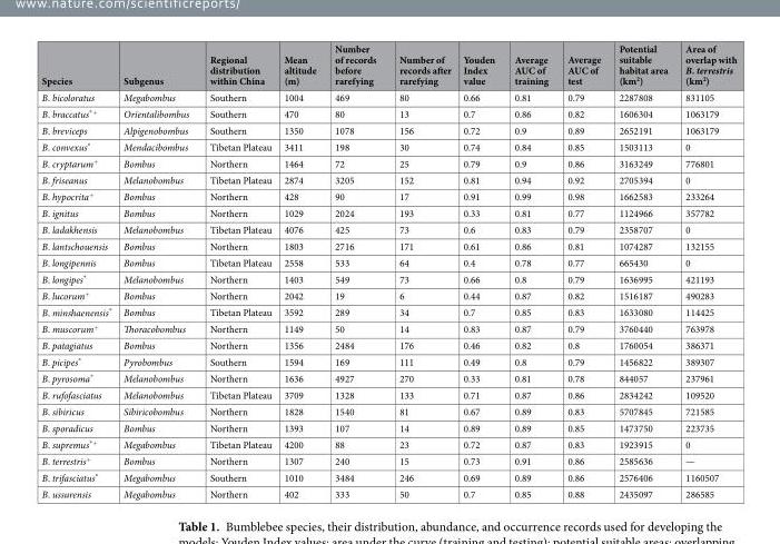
<table><thead><tr><td>Species</td><td>Subgenus</td><td>Regional distribution within China</td><td>Mean altitude (m)</td><td>Number of records before rarefying</td><td>Number of records after rarefying</td><td>Youden Index value</td><td>Average AUC of training</td><td>Average AUC of test</td><td>Potential suitable habitat area (km<sup>2</sup>)</td><td>Area of overlap with B. terrestris (km<sup>2</sup>)</td></tr></thead><tbody><tr><td>B. bicoloratus</td><td>Megabombus</td><td>Southern</td><td>1004</td><td>469</td><td>80</td><td>0.66</td><td>0.81</td><td>0.79</td><td>2287808</td><td>831105</td></tr><tr><td>B. braccatus<sup>*+</sup></td><td>Orientalibombus</td><td>Southern</td><td>470</td><td>80</td><td>13</td><td>0.7</td><td>0.86</td><td>0.82</td><td>1606304</td><td>1063179</td></tr><tr><td>B. breviceps</td><td>Alpigenobombus</td><td>Southern</td><td>1350</td><td>1078</td><td>156</td><td>0.72</td><td>0.9</td><td>0.89</td><td>2652191</td><td>1063179</td></tr><tr><td>B. convexus*</td><td>Mendacibombus</td><td>Tibetan Plateau</td><td>3411</td><td>198</td><td>30</td><td>0.74</td><td>0.84</td><td>0.85</td><td>1503113</td><td>0</td></tr><tr><td>B. cryptarum<sup>+</sup></td><td>Bombus</td><td>Northern</td><td>1464</td><td>72</td><td>25</td><td>0.79</td><td>0.9</td><td>0.86</td><td>3163249</td><td>776801</td></tr><tr><td>B. friseanus</td><td>Melanobombus</td><td>Tibetan Plateau</td><td>2874</td><td>3205</td><td>152</td><td>0.81</td><td>0.94</td><td>0.92</td><td>2705394</td><td>0</td></tr><tr><td>B. hypocrita<sup>+</sup></td><td>Bombus</td><td>Northern</td><td>428</td><td>90</td><td>17</td><td>0.91</td><td>0.99</td><td>0.98</td><td>1662583</td><td>233264</td></tr><tr><td>B. ignitus</td><td>Bombus</td><td>Northern</td><td>1029</td><td>2024</td><td>193</td><td>0.33</td><td>0.81</td><td>0.77</td><td>1124966</td><td>357782</td></tr><tr><td>B. ladakhensis</td><td>Melanobombus</td><td>Tibetan Plateau</td><td>4076</td><td>425</td><td>73</td><td>0.6</td><td>0.83</td><td>0.79</td><td>2358707</td><td>0</td></tr><tr><td>B. lantschouensis</td><td>Bombus</td><td>Northern</td><td>1803</td><td>2716</td><td>171</td><td>0.61</td><td>0.86</td><td>0.81</td><td>1074287</td><td>132155</td></tr><tr><td>B. longipennis</td><td>Bombus</td><td>Tibetan Plateau</td><td>2558</td><td>533</td><td>64</td><td>0.4</td><td>0.78</td><td>0.77</td><td>665430</td><td>0</td></tr><tr><td>B. longipes*</td><td>Melanobombus</td><td>Northern</td><td>1403</td><td>549</td><td>73</td><td>0.66</td><td>0.8</td><td>0.79</td><td>1636995</td><td>421193</td></tr><tr><td>B. lucorum<sup>+</sup></td><td>Bombus</td><td>Northern</td><td>2042</td><td>19</td><td>6</td><td>0.44</td><td>0.87</td><td>0.82</td><td>1516187</td><td>490283</td></tr><tr><td>B. minshaenensis*</td><td>Bombus</td><td>Tibetan Plateau</td><td>3592</td><td>289</td><td>34</td><td>0.7</td><td>0.85</td><td>0.83</td><td>1633080</td><td>114425</td></tr><tr><td>B. muscorum<sup>+</sup></td><td>Thoracobombus</td><td>Northern</td><td>1149</td><td>50</td><td>14</td><td>0.83</td><td>0.87</td><td>0.79</td><td>3760440</td><td>763978</td></tr><tr><td>B. patagiatus</td><td>Bombus</td><td>Northern</td><td>1356</td><td>2484</td><td>176</td><td>0.46</td><td>0.82</td><td>0.8</td><td>1760054</td><td>386371</td></tr><tr><td>B. picipes*</td><td>Pyrobombus</td><td>Southern</td><td>1594</td><td>169</td><td>111</td><td>0.49</td><td>0.8</td><td>0.79</td><td>1456822</td><td>389307</td></tr><tr><td>B. pyrosoma*</td><td>Melanobombus</td><td>Northern</td><td>1636</td><td>4927</td><td>270</td><td>0.33</td><td>0.81</td><td>0.78</td><td>844057</td><td>237961</td></tr><tr><td>B. rufofasciatus</td><td>Melanobombus</td><td>Tibetan Plateau</td><td>3709</td><td>1328</td><td>133</td><td>0.71</td><td>0.87</td><td>0.86</td><td>2834242</td><td>109520</td></tr><tr><td>B. sibiricus</td><td>Sibiricobombus</td><td>Northern</td><td>1828</td><td>1540</td><td>81</td><td>0.67</td><td>0.89</td><td>0.83</td><td>5707845</td><td>721585</td></tr><tr><td>B. sporadicus</td><td>Bombus</td><td>Northern</td><td>1393</td><td>107</td><td>14</td><td>0.89</td><td>0.89</td><td>0.85</td><td>1473750</td><td>223735</td></tr><tr><td>B. supremus<sup>*+</sup></td><td>Megabombus</td><td>Tibetan Plateau</td><td>4200</td><td>88</td><td>23</td><td>0.72</td><td>0.87</td><td>0.83</td><td>1923915</td><td>0</td></tr><tr><td>B. terrestris<sup>+</sup></td><td>Bombus</td><td>Northern</td><td>1307</td><td>240</td><td>15</td><td>0.73</td><td>0.91</td><td>0.86</td><td>2585636</td><td>—</td></tr><tr><td>B. trifasciatus*</td><td>Megabombus</td><td>Southern</td><td>1010</td><td>3484</td><td>246</td><td>0.69</td><td>0.89</td><td>0.86</td><td>2576406</td><td>1160507</td></tr><tr><td>B. ussurensis</td><td>Megabombus</td><td>Northern</td><td>402</td><td>333</td><td>50</td><td>0.7</td><td>0.85</td><td>0.88</td><td>2435097</td><td>286585</td></tr></tbody></table>